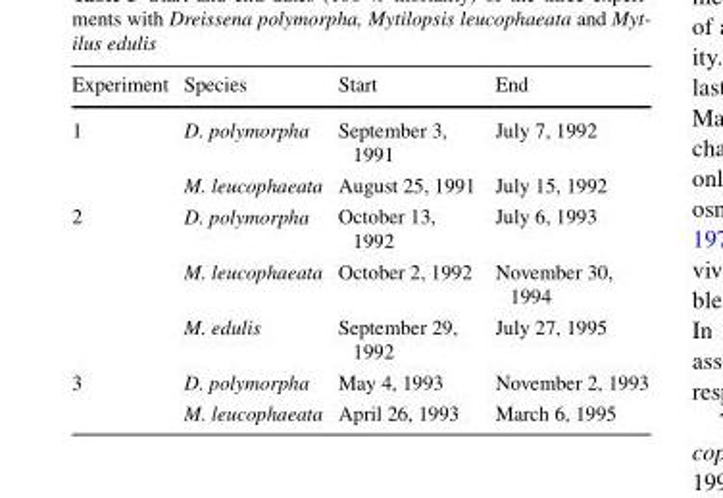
<table><thead><tr><td>Experiment</td><td>Species</td><td>Start</td><td>End</td></tr></thead><tbody><tr><td rowspan="2">1</td><td>D. polymorpha</td><td>September 3, 1991</td><td>July 7, 1992</td></tr><tr><td>M. leucophaeata</td><td>August 25, 1991</td><td>July 15, 1992</td></tr><tr><td rowspan="3">2</td><td>D. polymorpha</td><td>October 13, 1992</td><td>July 6, 1993</td></tr><tr><td>M. leucophaeata</td><td>October 2, 1992</td><td>November 30, 1994</td></tr><tr><td>M. edulis</td><td>September 29, 1992</td><td>July 27, 1995</td></tr><tr><td rowspan="2">3</td><td>D. polymorpha</td><td>May 4, 1993</td><td>November 2, 1993</td></tr><tr><td>M. leucophaeata</td><td>April 26, 1993</td><td>March 6, 1995</td></tr></tbody></table>